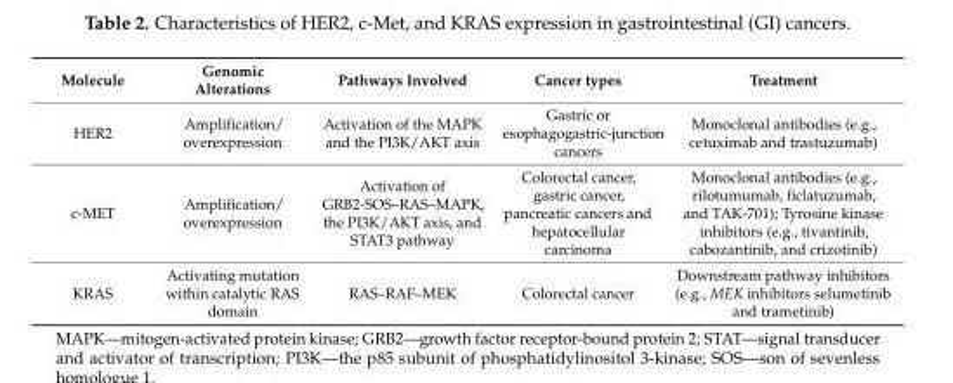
<table><thead><tr><td>Molecule</td><td>Genomic Alterations</td><td>Pathways Involved</td><td>Cancer types</td><td>Treatment</td></tr></thead><tbody><tr><td>HER2</td><td>Amplification/ overexpression</td><td>Activation of the MAPK and the PI3K/AKT axis</td><td>Gastric or esophagogastric-junction cancers</td><td>Monoclonal antibodies (e.g., cetuximab and trastuzumab)</td></tr><tr><td>c-MET</td><td>Amplification/ overexpression</td><td>Activation of GRB2-SOS–RAS–MAPK, the PI3K/AKT axis, and STAT3 pathway</td><td>Colorectal cancer, gastric cancer, pancreatic cancers and hepatocellular carcinoma</td><td>Monoclonal antibodies (e.g., rilotumumab, ficlatuzumab, and TAK-701); Tyrosine kinase inhibitors (e.g., tivantinib, cabozantinib, and crizotinib)</td></tr><tr><td>KRAS</td><td>Activating mutation within catalytic RAS domain</td><td>RAS–RAF–MEK</td><td>Colorectal cancer</td><td>Downstream pathway inhibitors (e.g., MEK inhibitors selumetinib and trametinib)</td></tr></tbody></table>